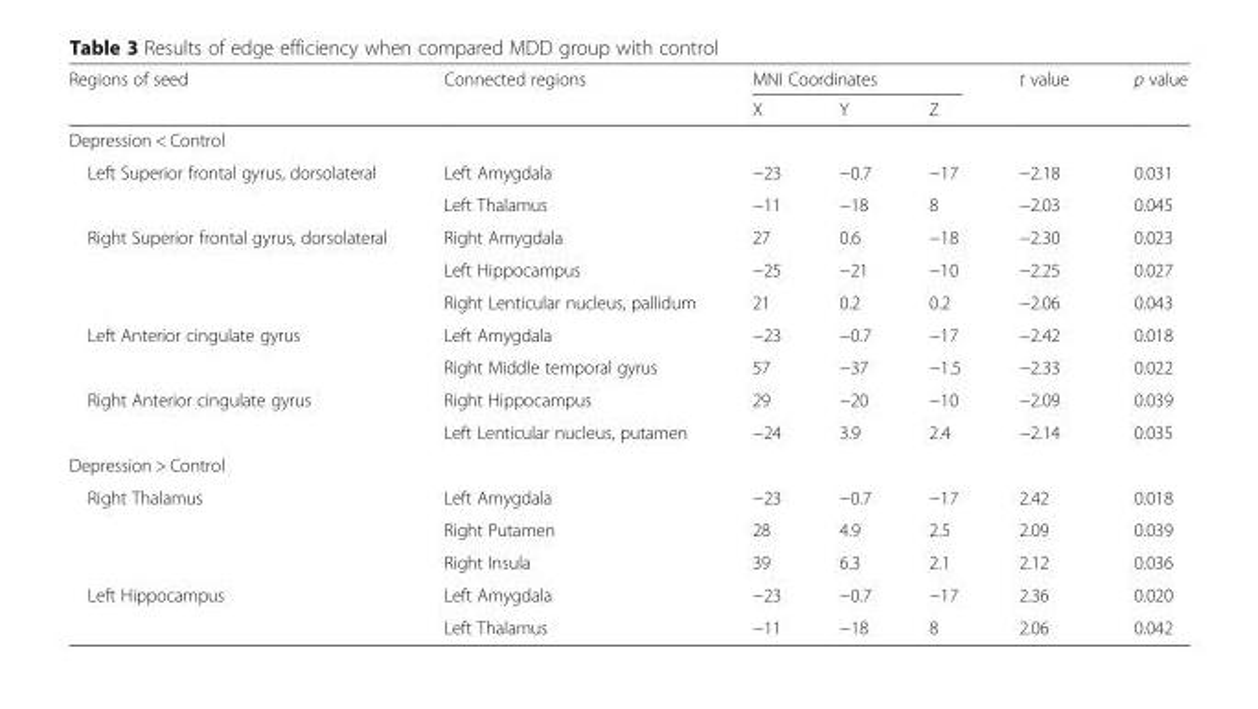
<table><thead><tr><td rowspan="2">Regions of seed</td><td rowspan="2">Connected regions</td><td colspan="3">MNI Coordinates</td><td rowspan="2">t value</td><td rowspan="2">p value</td></tr><tr><td>X</td><td>Y</td><td>Z</td></tr></thead><tbody><tr><td colspan="7">Depression &lt; Control</td></tr><tr><td rowspan="2">Left Superior frontal gyrus, dorsolateral</td><td>Left Amygdala</td><td>−23</td><td>−0.7</td><td>−17</td><td>−2.18</td><td>0.031</td></tr><tr><td>Left Thalamus</td><td>−11</td><td>−18</td><td>8</td><td>−2.03</td><td>0.045</td></tr><tr><td rowspan="3">Right Superior frontal gyrus, dorsolateral</td><td>Right Amygdala</td><td>27</td><td>0.6</td><td>−18</td><td>−2.30</td><td>0.023</td></tr><tr><td>Left Hippocampus</td><td>−25</td><td>−21</td><td>−10</td><td>−2.25</td><td>0.027</td></tr><tr><td>Right Lenticular nucleus, pallidum</td><td>21</td><td>0.2</td><td>0.2</td><td>−2.06</td><td>0.043</td></tr><tr><td rowspan="2">Left Anterior cingulate gyrus</td><td>Left Amygdala</td><td>−23</td><td>−0.7</td><td>−17</td><td>−2.42</td><td>0.018</td></tr><tr><td>Right Middle temporal gyrus</td><td>57</td><td>−37</td><td>−1.5</td><td>−2.33</td><td>0.022</td></tr><tr><td rowspan="2">Right Anterior cingulate gyrus</td><td>Right Hippocampus</td><td>29</td><td>−20</td><td>−10</td><td>−2.09</td><td>0.039</td></tr><tr><td>Left Lenticular nucleus, putamen</td><td>−24</td><td>3.9</td><td>2.4</td><td>−2.14</td><td>0.035</td></tr><tr><td colspan="7">Depression &gt; Control</td></tr><tr><td rowspan="3">Right Thalamus</td><td>Left Amygdala</td><td>−23</td><td>−0.7</td><td>−17</td><td>2.42</td><td>0.018</td></tr><tr><td>Right Putamen</td><td>28</td><td>4.9</td><td>2.5</td><td>2.09</td><td>0.039</td></tr><tr><td>Right Insula</td><td>39</td><td>6.3</td><td>2.1</td><td>2.12</td><td>0.036</td></tr><tr><td rowspan="2">Left Hippocampus</td><td>Left Amygdala</td><td>−23</td><td>−0.7</td><td>−17</td><td>2.36</td><td>0.020</td></tr><tr><td>Left Thalamus</td><td>−11</td><td>−18</td><td>8</td><td>2.06</td><td>0.042</td></tr></tbody></table>